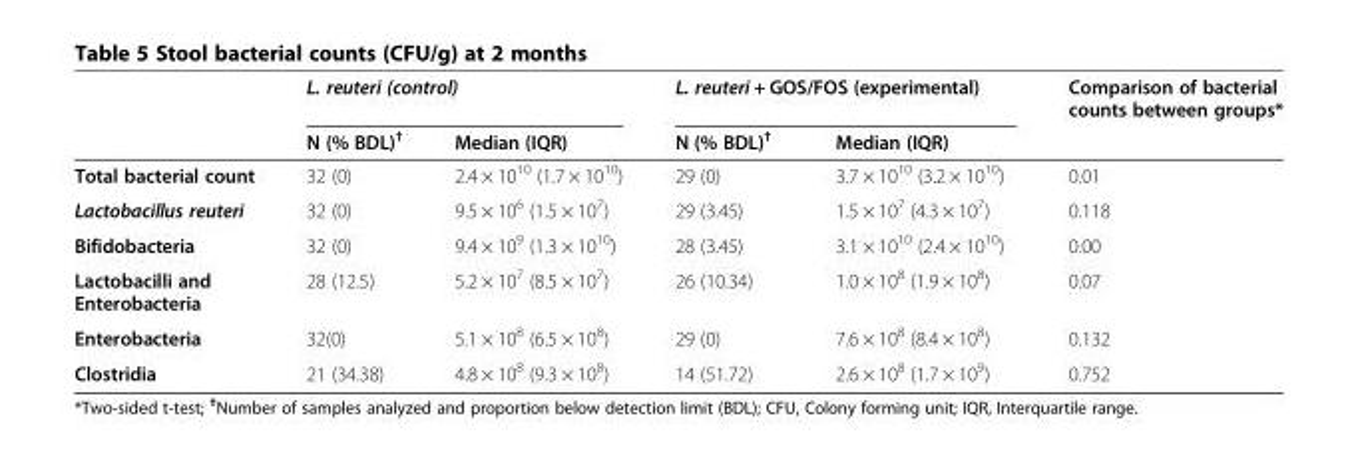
<table><thead><tr><td rowspan="2"></td><td colspan="2">L. reuteri (control)</td><td colspan="2">L. reuteri + GOS/FOS (experimental)</td><td rowspan="2">Comparison of bacterial counts between groups*</td></tr><tr><td>N (% BDL)<sup>†</sup></td><td>Median (IQR)</td><td>N (% BDL)<sup>†</sup></td><td>Median (IQR)</td></tr></thead><tbody><tr><td>Total bacterial count</td><td>32 (0)</td><td>2.4 × 10<sup>10</sup> (1.7 × 10<sup>10</sup>)</td><td>29 (0)</td><td>3.7 × 10<sup>10</sup> (3.2 × 10<sup>10</sup>)</td><td>0.01</td></tr><tr><td>Lactobacillus reuteri</td><td>32 (0)</td><td>9.5 × 10<sup>6</sup> (1.5 × 10<sup>7</sup>)</td><td>29 (3.45)</td><td>1.5 × 10<sup>7</sup> (4.3 × 10<sup>7</sup>)</td><td>0.118</td></tr><tr><td>Bifidobacteria</td><td>32 (0)</td><td>9.4 × 10<sup>9</sup> (1.3 × 10<sup>10</sup>)</td><td>28 (3.45)</td><td>3.1 × 10<sup>10</sup> (2.4 × 10<sup>10</sup>)</td><td>0.00</td></tr><tr><td>Lactobacilli and Enterobacteria</td><td>28 (12.5)</td><td>5.2 × 10<sup>7</sup> (8.5 × 10<sup>7</sup>)</td><td>26 (10.34)</td><td>1.0 × 10<sup>8</sup> (1.9 × 10<sup>8</sup>)</td><td>0.07</td></tr><tr><td>Enterobacteria</td><td>32(0)</td><td>5.1 × 10<sup>8</sup> (6.5 × 10<sup>8</sup>)</td><td>29 (0)</td><td>7.6 × 10<sup>8</sup> (8.4 × 10<sup>8</sup>)</td><td>0.132</td></tr><tr><td>Clostridia</td><td>21 (34.38)</td><td>4.8 × 10<sup>8</sup> (9.3 × 10<sup>8</sup>)</td><td>14 (51.72)</td><td>2.6 × 10<sup>8</sup> (1.7 × 10<sup>9</sup>)</td><td>0.752</td></tr></tbody></table>